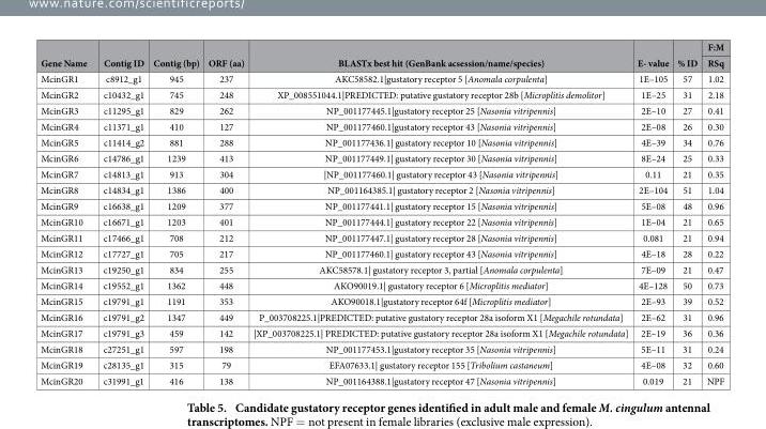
<table><thead><tr><td rowspan="2">Gene Name</td><td rowspan="2">Contig ID</td><td rowspan="2">Contig (bp)</td><td rowspan="2">ORF (aa)</td><td rowspan="2">BLASTx best hit (GenBank acsession/name/species)</td><td rowspan="2">E- value</td><td rowspan="2">% ID</td><td rowspan="2">F:M RSq</td></tr><tr></tr></thead><tbody><tr><td>McinGR1</td><td>c8912_g1</td><td>945</td><td>237</td><td>AKC58582.1|gustatory receptor 5 [Anomala corpulenta]</td><td>1E–105</td><td>57</td><td>1.02</td></tr><tr><td>McinGR2</td><td>c10432_g1</td><td>745</td><td>248</td><td>XP_008551044.1|PREDICTED: putative gustatory receptor 28b [Microplitis demolitor]</td><td>1E–25</td><td>31</td><td>2.18</td></tr><tr><td>McinGR3</td><td>c11295_g1</td><td>829</td><td>262</td><td>NP_001177445.1|gustatory receptor 25 [Nasonia vitripennis]</td><td>2E–10</td><td>27</td><td>0.41</td></tr><tr><td>McinGR4</td><td>c11371_g1</td><td>410</td><td>127</td><td>NP_001177460.1|gustatory receptor 43 [Nasonia vitripennis]</td><td>2E–08</td><td>26</td><td>0.30</td></tr><tr><td>McinGR5</td><td>c11414_g2</td><td>881</td><td>288</td><td>NP_001177436.1| gustatory receptor 10 [Nasonia vitripennis]</td><td>4E–39</td><td>34</td><td>0.76</td></tr><tr><td>McinGR6</td><td>c14786_g1</td><td>1239</td><td>413</td><td>NP_001177449.1| gustatory receptor 30 [Nasonia vitripennis]</td><td>8E–24</td><td>25</td><td>0.33</td></tr><tr><td>McinGR7</td><td>c14813_g1</td><td>913</td><td>304</td><td>|NP_001177460.1| gustatory receptor 43 [Nasonia vitripennis]</td><td>0.11</td><td>21</td><td>0.35</td></tr><tr><td>McinGR8</td><td>c14834_g1</td><td>1386</td><td>400</td><td>NP_001164385.1| gustatory receptor 2 [Nasonia vitripennis]</td><td>2E–104</td><td>51</td><td>1.04</td></tr><tr><td>McinGR9</td><td>c16638_g1</td><td>1209</td><td>377</td><td>NP_001177441.1| gustatory receptor 15 [Nasonia vitripennis]</td><td>5E–08</td><td>48</td><td>0.96</td></tr><tr><td>McinGR10</td><td>c16671_g1</td><td>1203</td><td>401</td><td>NP_001177444.1| gustatory receptor 22 [Nasonia vitripennis]</td><td>1E–04</td><td>21</td><td>0.65</td></tr><tr><td>McinGR11</td><td>c17466_g1</td><td>708</td><td>212</td><td>NP_001177447.1| gustatory receptor 28 [Nasonia vitripennis]</td><td>0.081</td><td>21</td><td>0.94</td></tr><tr><td>McinGR12</td><td>c17727_g1</td><td>705</td><td>217</td><td>NP_001177460.1| gustatory receptor 43 [Nasonia vitripennis]</td><td>4E–18</td><td>28</td><td>0.22</td></tr><tr><td>McinGR13</td><td>c19250_g1</td><td>834</td><td>255</td><td>AKC58578.1| gustatory receptor 3, partial [Anomala corpulenta]</td><td>7E–09</td><td>21</td><td>0.47</td></tr><tr><td>McinGR14</td><td>c19552_g1</td><td>1362</td><td>448</td><td>AKO90019.1| gustatory receptor 6 [Microplitis mediator]</td><td>4E–128</td><td>50</td><td>0.73</td></tr><tr><td>McinGR15</td><td>c19791_g1</td><td>1191</td><td>353</td><td>AKO90018.1|gustatory receptor 64f [Microplitis mediator]</td><td>2E–93</td><td>39</td><td>0.52</td></tr><tr><td>McinGR16</td><td>c19791_g2</td><td>1347</td><td>449</td><td>P_003708225.1|PREDICTED: putative gustatory receptor 28a isoform X1 [Megachile rotundata]</td><td>2E–62</td><td>31</td><td>0.96</td></tr><tr><td>McinGR17</td><td>c19791_g3</td><td>459</td><td>142</td><td>|XP_003708225.1| PREDICTED: putative gustatory receptor 28a isoform X1 [Megachile rotundata]</td><td>2E–19</td><td>36</td><td>0.36</td></tr><tr><td>McinGR18</td><td>c27251_g1</td><td>597</td><td>198</td><td>NP_001177453.1|gustatory receptor 35 [Nasonia vitripennis]</td><td>5E–11</td><td>31</td><td>0.24</td></tr><tr><td>McinGR19</td><td>c28135_g1</td><td>315</td><td>79</td><td>EFA07633.1| gustatory receptor 155 [Tribolium castaneum]</td><td>4E–08</td><td>32</td><td>0.60</td></tr><tr><td>McinGR20</td><td>c31991_g1</td><td>416</td><td>138</td><td>NP_001164388.1|gustatory receptor 47 [Nasonia vitripennis]</td><td>0.019</td><td>21</td><td>NPF</td></tr></tbody></table>